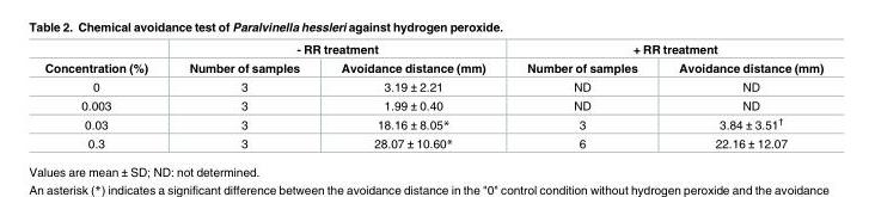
<table><thead><tr><td rowspan="2">Concentration (%)</td><td colspan="2">- RR treatment</td><td colspan="2">+ RR treatment</td></tr><tr><td>Number of samples</td><td>Avoidance distance (mm)</td><td>Number of samples</td><td>Avoidance distance (mm)</td></tr></thead><tbody><tr><td>0</td><td>3</td><td>3.19 ± 2.21</td><td>ND</td><td>ND</td></tr><tr><td>0.003</td><td>3</td><td>1.99 ± 0.40</td><td>ND</td><td>ND</td></tr><tr><td>0.03</td><td>3</td><td>18.16 ± 8.05*</td><td>3</td><td>3.84 ± 3.51<sup>†</sup></td></tr><tr><td>0.3</td><td>3</td><td>28.07 ± 10.60*</td><td>6</td><td>22.16 ± 12.07</td></tr></tbody></table>